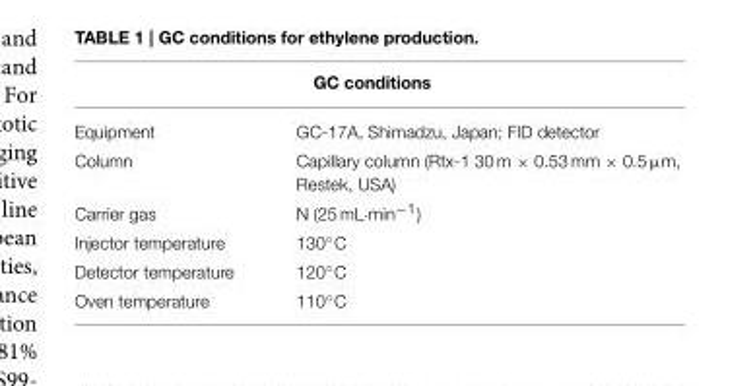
<table><thead><tr><td colspan="2">GC conditions</td></tr><tr><td>Equipment</td><td>GC-17A, Shimadzu, Japan; FID detector</td></tr></thead><tbody><tr><td>Column</td><td>Capillary column (Rtx-1 30 m × 0.53 mm × 0.5 µm, Restek, USA)</td></tr><tr><td>Carrier gas</td><td>N (25 mL·min<sup>−1</sup>)</td></tr><tr><td>Injector temperature</td><td>130◦C</td></tr><tr><td>Detector temperature</td><td>120◦C</td></tr><tr><td>Oven temperature</td><td>110◦C</td></tr></tbody></table>